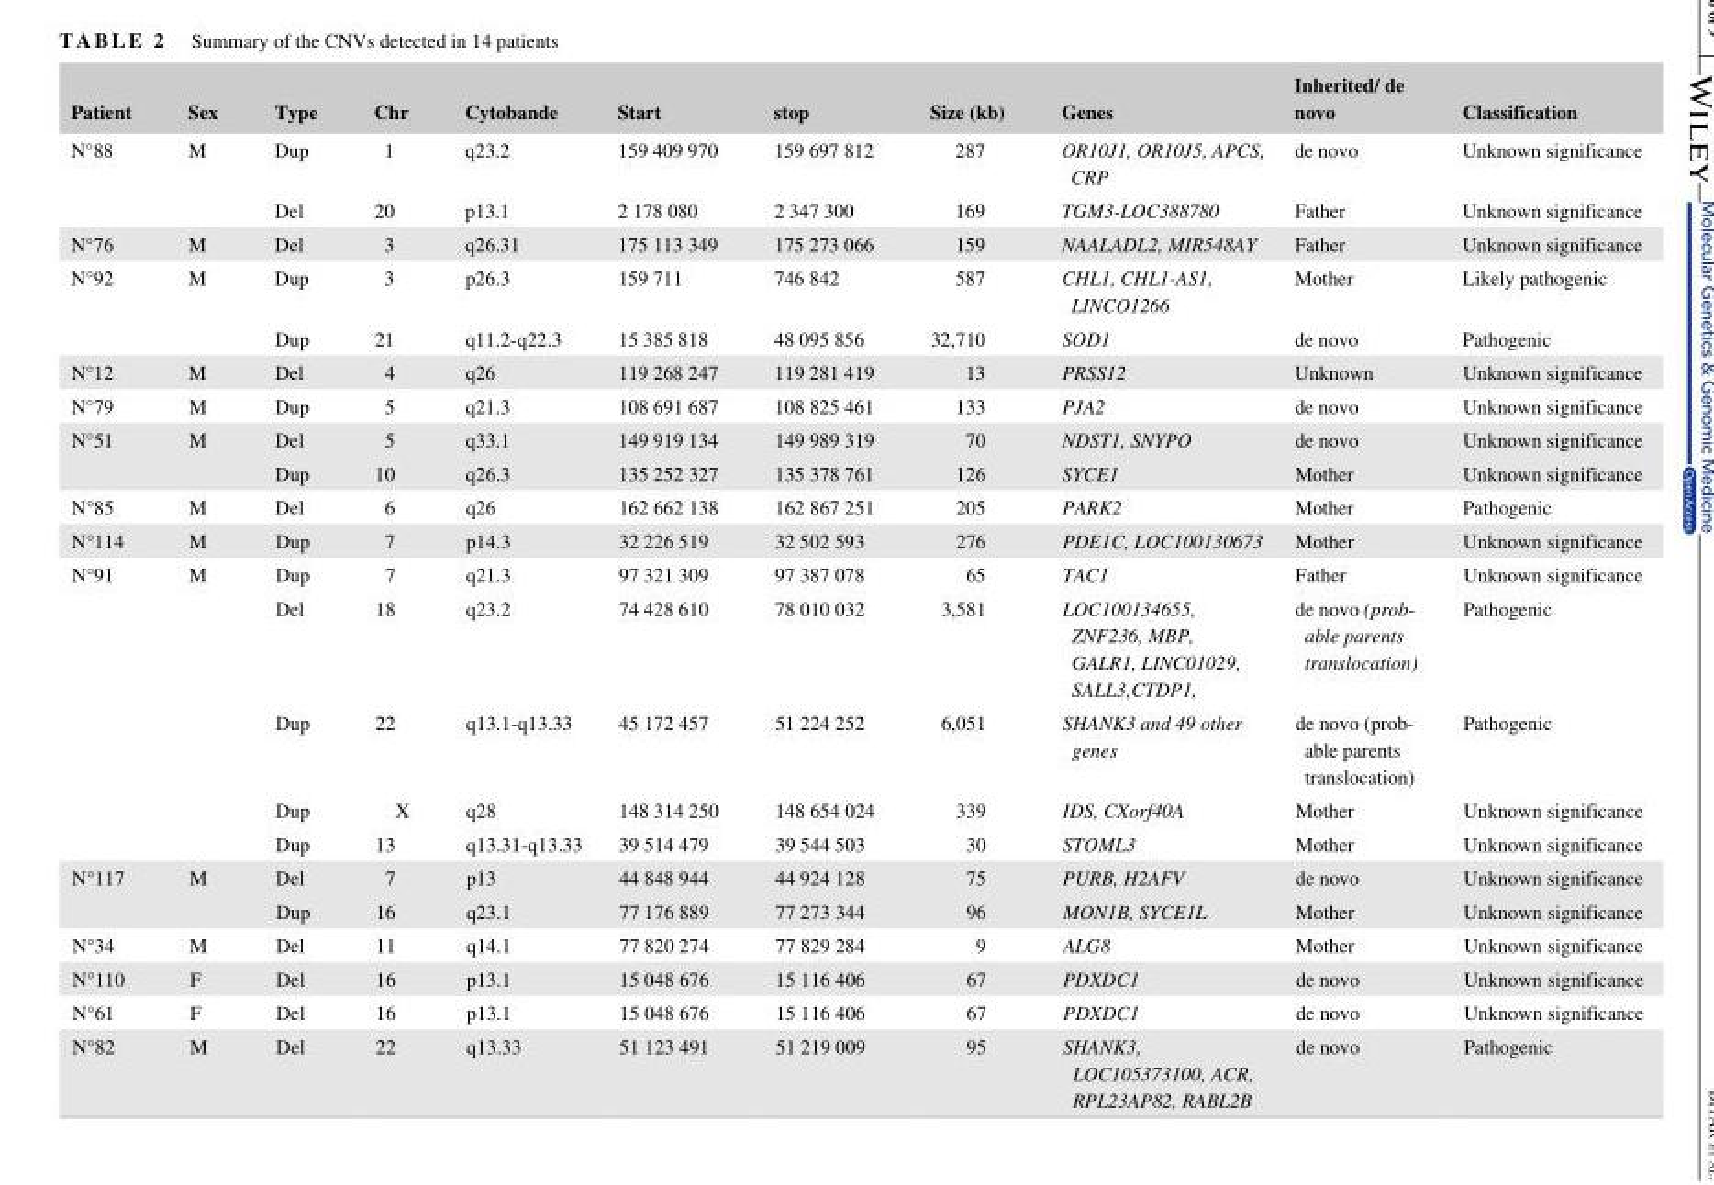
<table><thead><tr><td>Patient</td><td>Sex</td><td>Type</td><td>Chr</td><td>Cytobande</td><td>Start</td><td>stop</td><td>Size (kb)</td><td>Genes</td><td>Inherited/ de novo</td><td>Classification</td></tr></thead><tbody><tr><td rowspan="2">N°88</td><td rowspan="2">M</td><td>Dup</td><td>1</td><td>q23.2</td><td>159 409 970</td><td>159 697 812</td><td>287</td><td>OR10J1, OR10J5, APCS, CRP</td><td>de novo</td><td>Unknown significance</td></tr><tr><td>Del</td><td>20</td><td>p13.1</td><td>2 178 080</td><td>2 347 300</td><td>169</td><td>TGM3‐LOC388780</td><td>Father</td><td>Unknown significance</td></tr><tr><td>N°76</td><td>M</td><td>Del</td><td>3</td><td>q26.31</td><td>175 113 349</td><td>175 273 066</td><td>159</td><td>NAALADL2, MIR548AY</td><td>Father</td><td>Unknown significance</td></tr><tr><td rowspan="2">N°92</td><td rowspan="2">M</td><td>Dup</td><td>3</td><td>p26.3</td><td>159 711</td><td>746 842</td><td>587</td><td>CHL1, CHL1‐AS1, LINCO1266</td><td>Mother</td><td>Likely pathogenic</td></tr><tr><td>Dup</td><td>21</td><td>q11.2‐q22.3</td><td>15 385 818</td><td>48 095 856</td><td>32,710</td><td>SOD1</td><td>de novo</td><td>Pathogenic</td></tr><tr><td>N°12</td><td>M</td><td>Del</td><td>4</td><td>q26</td><td>119 268 247</td><td>119 281 419</td><td>13</td><td>PRSS12</td><td>Unknown</td><td>Unknown significance</td></tr><tr><td>N°79</td><td>M</td><td>Dup</td><td>5</td><td>q21.3</td><td>108 691 687</td><td>108 825 461</td><td>133</td><td>PJA2</td><td>de novo</td><td>Unknown significance</td></tr><tr><td rowspan="2">N°51</td><td rowspan="2">M</td><td>Del</td><td>5</td><td>q33.1</td><td>149 919 134</td><td>149 989 319</td><td>70</td><td>NDST1, SNYPO</td><td>de novo</td><td>Unknown significance</td></tr><tr><td>Dup</td><td>10</td><td>q26.3</td><td>135 252 327</td><td>135 378 761</td><td>126</td><td>SYCE1</td><td>Mother</td><td>Unknown significance</td></tr><tr><td>N°85</td><td>M</td><td>Del</td><td>6</td><td>q26</td><td>162 662 138</td><td>162 867 251</td><td>205</td><td>PARK2</td><td>Mother</td><td>Pathogenic</td></tr><tr><td>N°114</td><td>M</td><td>Dup</td><td>7</td><td>p14.3</td><td>32 226 519</td><td>32 502 593</td><td>276</td><td>PDE1C, LOC100130673</td><td>Mother</td><td>Unknown significance</td></tr><tr><td rowspan="5">N°91</td><td rowspan="5">M</td><td>Dup</td><td>7</td><td>q21.3</td><td>97 321 309</td><td>97 387 078</td><td>65</td><td>TAC1</td><td>Father</td><td>Unknown significance</td></tr><tr><td>Del</td><td>18</td><td>q23.2</td><td>74 428 610</td><td>78 010 032</td><td>3,581</td><td>LOC100134655, ZNF236, MBP, GALR1, LINC01029, SALL3,CTDP1,</td><td>de novo (prob- able parents translocation)</td><td>Pathogenic</td></tr><tr><td>Dup</td><td>22</td><td>q13.1‐q13.33</td><td>45 172 457</td><td>51 224 252</td><td>6,051</td><td>SHANK3 and 49 other genes</td><td>de novo (prob- able parents translocation)</td><td>Pathogenic</td></tr><tr><td>Dup</td><td>X</td><td>q28</td><td>148 314 250</td><td>148 654 024</td><td>339</td><td>IDS, CXorf40A</td><td>Mother</td><td>Unknown significance</td></tr><tr><td>Dup</td><td>13</td><td>q13.31‐q13.33</td><td>39 514 479</td><td>39 544 503</td><td>30</td><td>STOML3</td><td>Mother</td><td>Unknown significance</td></tr><tr><td rowspan="2">N°117</td><td rowspan="2">M</td><td>Del</td><td>7</td><td>p13</td><td>44 848 944</td><td>44 924 128</td><td>75</td><td>PURB, H2AFV</td><td>de novo</td><td>Unknown significance</td></tr><tr><td>Dup</td><td>16</td><td>q23.1</td><td>77 176 889</td><td>77 273 344</td><td>96</td><td>MON1B, SYCE1L</td><td>Mother</td><td>Unknown significance</td></tr><tr><td>N°34</td><td>M</td><td>Del</td><td>11</td><td>q14.1</td><td>77 820 274</td><td>77 829 284</td><td>9</td><td>ALG8</td><td>Mother</td><td>Unknown significance</td></tr><tr><td>N°110</td><td>F</td><td>Del</td><td>16</td><td>p13.1</td><td>15 048 676</td><td>15 116 406</td><td>67</td><td>PDXDC1</td><td>de novo</td><td>Unknown significance</td></tr><tr><td>N°61</td><td>F</td><td>Del</td><td>16</td><td>p13.1</td><td>15 048 676</td><td>15 116 406</td><td>67</td><td>PDXDC1</td><td>de novo</td><td>Unknown significance</td></tr><tr><td>N°82</td><td>M</td><td>Del</td><td>22</td><td>q13.33</td><td>51 123 491</td><td>51 219 009</td><td>95</td><td>SHANK3, LOC105373100, ACR, RPL23AP82, RABL2B</td><td>de novo</td><td>Pathogenic</td></tr></tbody></table>